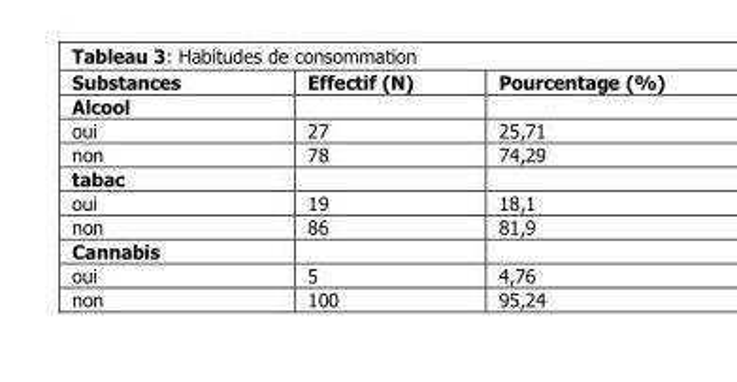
<table><thead><tr><td>Substances</td><td>Effectif (N)</td><td>Pourcentage (%)</td></tr></thead><tbody><tr><td colspan="3">Alcool</td></tr><tr><td>oui</td><td>27</td><td>25,71</td></tr><tr><td>non</td><td>78</td><td>74,29</td></tr><tr><td colspan="3">tabac</td></tr><tr><td>oui</td><td>19</td><td>18,1</td></tr><tr><td>non</td><td>86</td><td>81,9</td></tr><tr><td colspan="3">Cannabis</td></tr><tr><td>oui</td><td>5</td><td>4,76</td></tr><tr><td>non</td><td>100</td><td>95,24</td></tr></tbody></table>